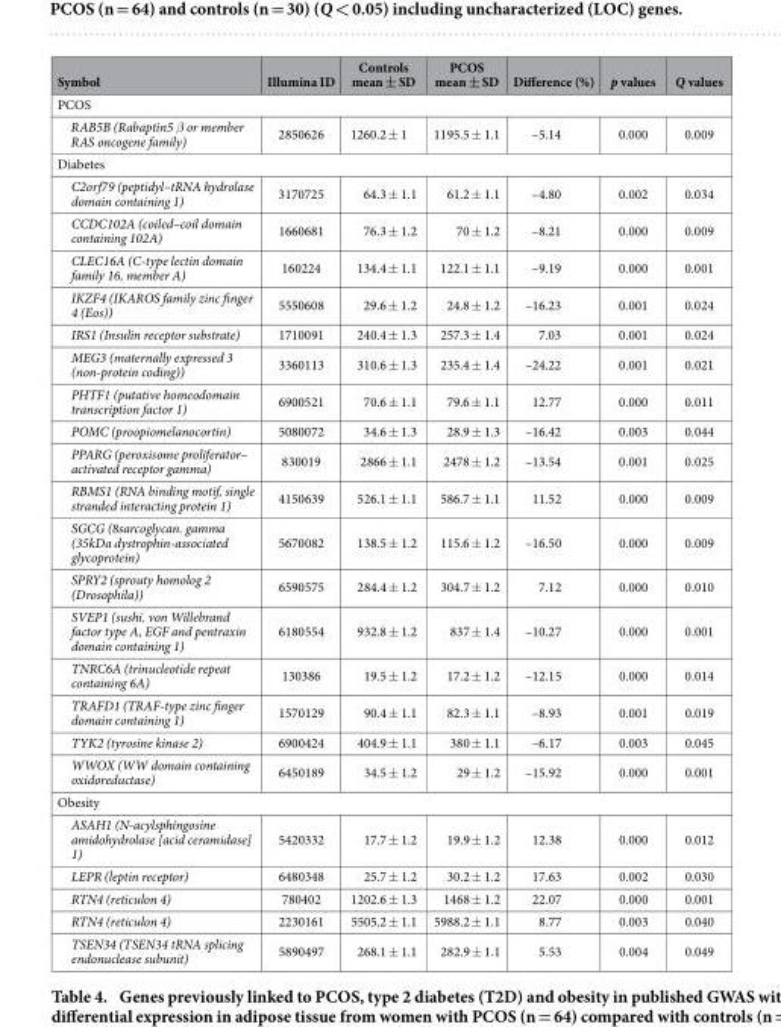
<table><thead><tr><td>Symbol</td><td>Illumina ID</td><td>Controls mean ± SD</td><td>PCOS mean ± SD</td><td>Difference (%)</td><td>p values</td><td>Q values</td></tr></thead><tbody><tr><td colspan="7">PCOS</td></tr><tr><td>RAB5B (Rabaptin5 β or member RAS oncogene family)</td><td>2850626</td><td>1260.2 ± 1</td><td>1195.5 ± 1.1</td><td>–5.14</td><td>0.000</td><td>0.009</td></tr><tr><td colspan="7">Diabetes</td></tr><tr><td>C2orf79 (peptidyl–tRNA hydrolase domain containing 1)</td><td>3170725</td><td>64.3 ± 1.1</td><td>61.2 ± 1.1</td><td>–4.80</td><td>0.002</td><td>0.034</td></tr><tr><td>CCDC102A (coiled–coil domain containing 102A)</td><td>1660681</td><td>76.3 ± 1.2</td><td>70 ± 1.2</td><td>–8.21</td><td>0.000</td><td>0.009</td></tr><tr><td>CLEC16A (C-type lectin domain family 16, member A)</td><td>160224</td><td>134.4 ± 1.1</td><td>122.1 ± 1.1</td><td>–9.19</td><td>0.000</td><td>0.001</td></tr><tr><td>IKZF4 (IKAROS family zinc finger 4 (Eos))</td><td>5550608</td><td>29.6 ± 1.2</td><td>24.8 ± 1.2</td><td>–16.23</td><td>0.001</td><td>0.024</td></tr><tr><td>IRS1 (Insulin receptor substrate)</td><td>1710091</td><td>240.4 ± 1.3</td><td>257.3 ± 1.4</td><td>7.03</td><td>0.001</td><td>0.024</td></tr><tr><td>MEG3 (maternally expressed 3 (non-protein coding))</td><td>3360113</td><td>310.6 ± 1.3</td><td>235.4 ± 1.4</td><td>–24.22</td><td>0.001</td><td>0.021</td></tr><tr><td>PHTF1 (putative homeodomain transcription factor 1)</td><td>6900521</td><td>70.6 ± 1.1</td><td>79.6 ± 1.1</td><td>12.77</td><td>0.000</td><td>0.011</td></tr><tr><td>POMC (proopiomelanocortin)</td><td>5080072</td><td>34.6 ± 1.3</td><td>28.9 ± 1.3</td><td>–16.42</td><td>0.003</td><td>0.044</td></tr><tr><td>PPARG (peroxisome proliferator– activated receptor gamma)</td><td>830019</td><td>2866 ± 1.1</td><td>2478 ± 1.2</td><td>–13.54</td><td>0.001</td><td>0.025</td></tr><tr><td>RBMS1 (RNA binding motif, single stranded interacting protein 1)</td><td>4150639</td><td>526.1 ± 1.1</td><td>586.7 ± 1.1</td><td>11.52</td><td>0.000</td><td>0.009</td></tr><tr><td>SGCG (8sarcoglycan. gamma (35kDa dystrophin-associated glycoprotein)</td><td>5670082</td><td>138.5 ± 1.2</td><td>115.6 ± 1.2</td><td>–16.50</td><td>0.000</td><td>0.009</td></tr><tr><td>SPRY2 (sprouty homolog 2 (Drosophila))</td><td>6590575</td><td>284.4 ± 1.2</td><td>304.7 ± 1.2</td><td>7.12</td><td>0.000</td><td>0.010</td></tr><tr><td>SVEP1 (sushi. von Willebrand factor type A, EGF and pentraxin domain containing 1)</td><td>6180554</td><td>932.8 ± 1.2</td><td>837 ± 1.4</td><td>–10.27</td><td>0.000</td><td>0.001</td></tr><tr><td>TNRC6A (trinucleotide repeat containing 6A)</td><td>130386</td><td>19.5 ± 1.2</td><td>17.2 ± 1.2</td><td>–12.15</td><td>0.000</td><td>0.014</td></tr><tr><td>TRAFD1 (TRAF-type zinc finger domain containing 1)</td><td>1570129</td><td>90.4 ± 1.1</td><td>82.3 ± 1.1</td><td>–8.93</td><td>0.001</td><td>0.019</td></tr><tr><td>TYK2 (tyrosine kinase 2)</td><td>6900424</td><td>404.9 ± 1.1</td><td>380 ± 1.1</td><td>–6.17</td><td>0.003</td><td>0.045</td></tr><tr><td>WWOX (WW domain containing oxidoreductase)</td><td>6450189</td><td>34.5 ± 1.2</td><td>29 ± 1.2</td><td>–15.92</td><td>0.000</td><td>0.001</td></tr><tr><td colspan="7">Obesity</td></tr><tr><td>ASAH1 (N-acylsphingosine amidohydrolase [acid ceramidase] 1)</td><td>5420332</td><td>17.7 ± 1.2</td><td>19.9 ± 1.2</td><td>12.38</td><td>0.000</td><td>0.012</td></tr><tr><td>LEPR (leptin receptor)</td><td>6480348</td><td>25.7 ± 1.2</td><td>30.2 ± 1.2</td><td>17.63</td><td>0.002</td><td>0.030</td></tr><tr><td>RTN4 (reticulon 4)</td><td>780402</td><td>1202.6 ± 1.3</td><td>1468 ± 1.2</td><td>22.07</td><td>0.000</td><td>0.001</td></tr><tr><td>RTN4 (reticulon 4)</td><td>2230161</td><td>5505.2 ± 1.1</td><td>5988.2 ± 1.1</td><td>8.77</td><td>0.003</td><td>0.040</td></tr><tr><td>TSEN34 (TSEN34 tRNA splicing endonuclease subunit)</td><td>5890497</td><td>268.1 ± 1.1</td><td>282.9 ± 1.1</td><td>5.53</td><td>0.004</td><td>0.049</td></tr></tbody></table>